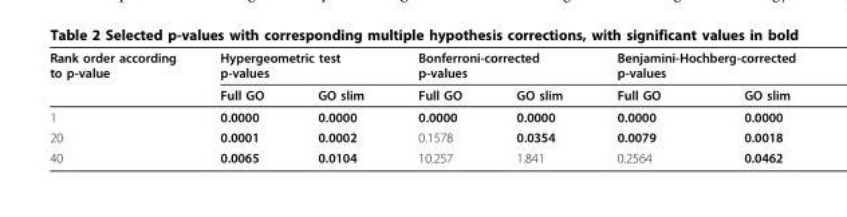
<table><thead><tr><td rowspan="2">Rank order according to p-value</td><td colspan="2">Hypergeometric test p-values</td><td colspan="2">Bonferroni-corrected p-values</td><td colspan="2">Benjamini-Hochberg-corrected p-values</td></tr><tr><td>Full GO</td><td>GO slim</td><td>Full GO</td><td>GO slim</td><td>Full GO</td><td>GO slim</td></tr></thead><tbody><tr><td>1</td><td>0.0000</td><td>0.0000</td><td>0.0000</td><td>0.0000</td><td>0.0000</td><td>0.0000</td></tr><tr><td>20</td><td>0.0001</td><td>0.0002</td><td>0.1578</td><td>0.0354</td><td>0.0079</td><td>0.0018</td></tr><tr><td>40</td><td>0.0065</td><td>0.0104</td><td>10.257</td><td>1.841</td><td>0.2564</td><td>0.0462</td></tr></tbody></table>